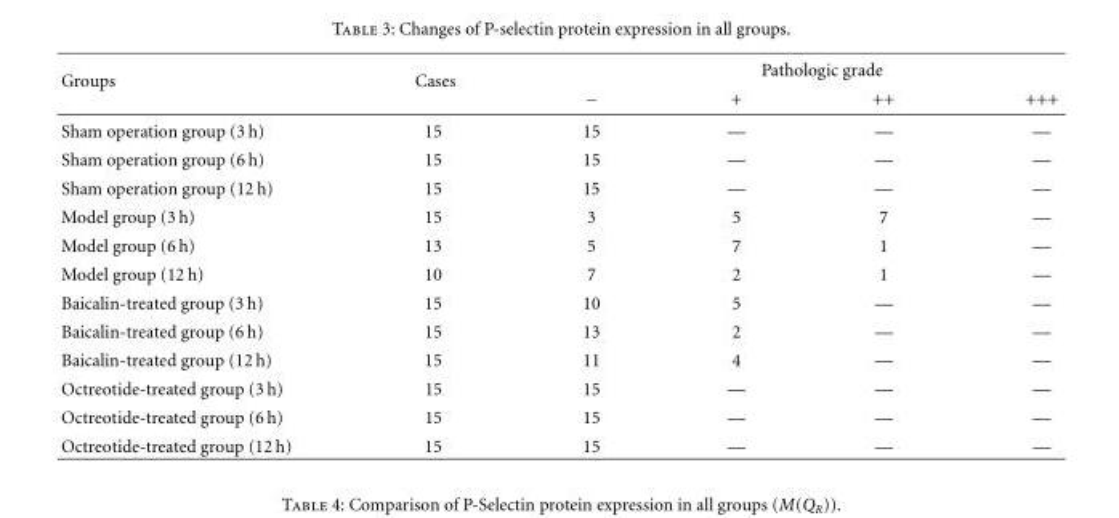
<table><thead><tr><td rowspan="2">Groups</td><td rowspan="2">Cases</td><td colspan="4">Pathologic grade</td></tr><tr><td>−</td><td>+</td><td>++</td><td>+++</td></tr></thead><tbody><tr><td>Sham operation group (3 h)</td><td>15</td><td>15</td><td>—</td><td>—</td><td>—</td></tr><tr><td>Sham operation group (6 h)</td><td>15</td><td>15</td><td>—</td><td>—</td><td>—</td></tr><tr><td>Sham operation group (12 h)</td><td>15</td><td>15</td><td>—</td><td>—</td><td>—</td></tr><tr><td>Model group (3 h)</td><td>15</td><td>3</td><td>5</td><td>7</td><td>—</td></tr><tr><td>Model group (6 h)</td><td>13</td><td>5</td><td>7</td><td>1</td><td>—</td></tr><tr><td>Model group (12 h)</td><td>10</td><td>7</td><td>2</td><td>1</td><td>—</td></tr><tr><td>Baicalin-treated group (3 h)</td><td>15</td><td>10</td><td>5</td><td>—</td><td>—</td></tr><tr><td>Baicalin-treated group (6 h)</td><td>15</td><td>13</td><td>2</td><td>—</td><td>—</td></tr><tr><td>Baicalin-treated group (12 h)</td><td>15</td><td>11</td><td>4</td><td>—</td><td>—</td></tr><tr><td>Octreotide-treated group (3 h)</td><td>15</td><td>15</td><td>—</td><td>—</td><td>—</td></tr><tr><td>Octreotide-treated group (6 h)</td><td>15</td><td>15</td><td>—</td><td>—</td><td>—</td></tr><tr><td>Octreotide-treated group (12 h)</td><td>15</td><td>15</td><td>—</td><td>—</td><td>—</td></tr></tbody></table>